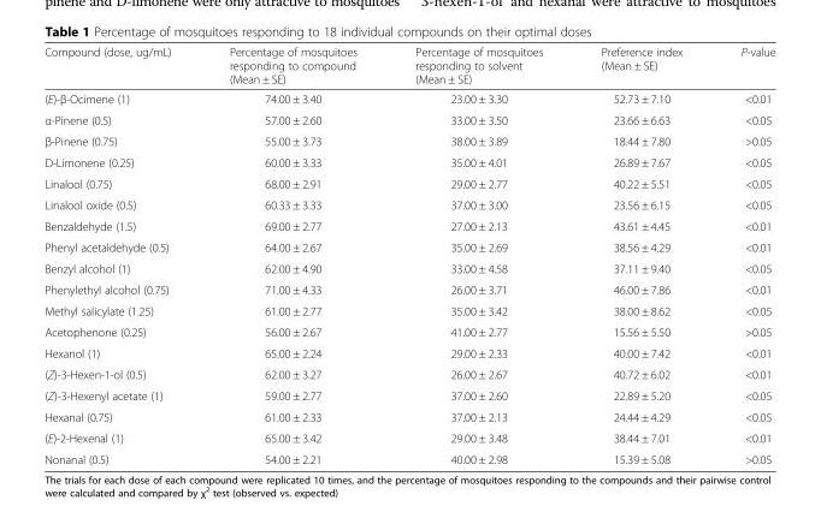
<table><thead><tr><td>Compound (dose, ug/mL)</td><td>Percentage of mosquitoes responding to compound (Mean ± SE)</td><td>Percentage of mosquitoes responding to solvent (Mean ± SE)</td><td>Preference index (Mean ± SE)</td><td>P-value</td></tr></thead><tbody><tr><td>(E)-β-Ocimene (1)</td><td>74.00 ± 3.40</td><td>23.00 ± 3.30</td><td>52.73 ± 7.10</td><td>&lt;0.01</td></tr><tr><td>α-Pinene (0.5)</td><td>57.00 ± 2.60</td><td>33.00 ± 3.50</td><td>23.66 ± 6.63</td><td>&lt;0.05</td></tr><tr><td>β-Pinene (0.75)</td><td>55.00 ± 3.73</td><td>38.00 ± 3.89</td><td>18.44 ± 7.80</td><td>&gt;0.05</td></tr><tr><td>D-Limonene (0.25)</td><td>60.00 ± 3.33</td><td>35.00 ± 4.01</td><td>26.89 ± 7.67</td><td>&lt;0.05</td></tr><tr><td>Linalool (0.75)</td><td>68.00 ± 2.91</td><td>29.00 ± 2.77</td><td>40.22 ± 5.51</td><td>&lt;0.05</td></tr><tr><td>Linalool oxide (0.5)</td><td>60.33 ± 3.33</td><td>37.00 ± 3.00</td><td>23.56 ± 6.15</td><td>&lt;0.05</td></tr><tr><td>Benzaldehyde (1.5)</td><td>69.00 ± 2.77</td><td>27.00 ± 2.13</td><td>43.61 ± 4.45</td><td>&lt;0.01</td></tr><tr><td>Phenyl acetaldehyde (0.5)</td><td>64.00 ± 2.67</td><td>35.00 ± 2.69</td><td>38.56 ± 4.29</td><td>&lt;0.01</td></tr><tr><td>Benzyl alcohol (1)</td><td>62.00 ± 4.90</td><td>33.00 ± 4.58</td><td>37.11 ± 9.40</td><td>&lt;0.05</td></tr><tr><td>Phenylethyl alcohol (0.75)</td><td>71.00 ± 4.33</td><td>26.00 ± 3.71</td><td>46.00 ± 7.86</td><td>&lt;0.01</td></tr><tr><td>Methyl salicylate (1.25)</td><td>61.00 ± 2.77</td><td>35.00 ± 3.42</td><td>38.00 ± 8.62</td><td>&lt;0.05</td></tr><tr><td>Acetophenone (0.25)</td><td>56.00 ± 2.67</td><td>41.00 ± 2.77</td><td>15.56 ± 5.50</td><td>&gt;0.05</td></tr><tr><td>Hexanol (1)</td><td>65.00 ± 2.24</td><td>29.00 ± 2.33</td><td>40.00 ± 7.42</td><td>&lt;0.01</td></tr><tr><td>(Z)-3-Hexen-1-ol (0.5)</td><td>62.00 ± 3.27</td><td>26.00 ± 2.67</td><td>40.72 ± 6.02</td><td>&lt;0.01</td></tr><tr><td>(Z)-3-Hexenyl acetate (1)</td><td>59.00 ± 2.77</td><td>37.00 ± 2.60</td><td>22.89 ± 5.20</td><td>&lt;0.05</td></tr><tr><td>Hexanal (0.75)</td><td>61.00 ± 2.33</td><td>37.00 ± 2.13</td><td>24.44 ± 4.29</td><td>&lt;0.05</td></tr><tr><td>(E)-2-Hexenal (1)</td><td>65.00 ± 3.42</td><td>29.00 ± 3.48</td><td>38.44 ± 7.01</td><td>&lt;0.01</td></tr><tr><td>Nonanal (0.5)</td><td>54.00 ± 2.21</td><td>40.00 ± 2.98</td><td>15.39 ± 5.08</td><td>&gt;0.05</td></tr></tbody></table>